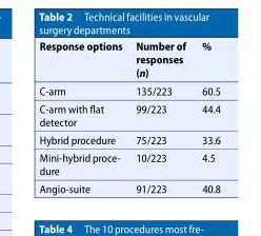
<table><thead><tr><td>Response options</td><td>Number of responses (n)</td><td>%</td></tr></thead><tbody><tr><td>C-arm</td><td>135/223</td><td>60.5</td></tr><tr><td>C-arm with flat detector</td><td>99/223</td><td>44.4</td></tr><tr><td>Hybrid procedure</td><td>75/223</td><td>33.6</td></tr><tr><td>Mini-hybrid proce- dure</td><td>10/223</td><td>4.5</td></tr><tr><td>Angio-suite</td><td>91/223</td><td>40.8</td></tr></tbody></table>